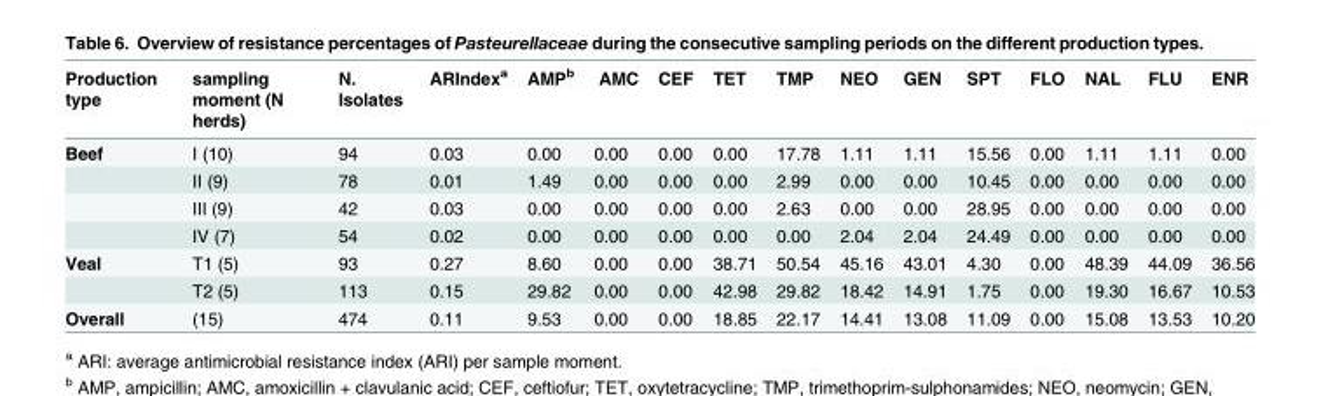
<table><thead><tr><td>Production type</td><td>sampling moment (N herds)</td><td>N. Isolates</td><td>ARIndex<sup>a</sup></td><td>AMP<sup>b</sup></td><td>AMC</td><td>CEF</td><td>TET</td><td>TMP</td><td>NEO</td><td>GEN</td><td>SPT</td><td>FLO</td><td>NAL</td><td>FLU</td><td>ENR</td></tr></thead><tbody><tr><td rowspan="4">Beef</td><td>I (10)</td><td>94</td><td>0.03</td><td>0.00</td><td>0.00</td><td>0.00</td><td>0.00</td><td>17.78</td><td>1.11</td><td>1.11</td><td>15.56</td><td>0.00</td><td>1.11</td><td>1.11</td><td>0.00</td></tr><tr><td>II (9)</td><td>78</td><td>0.01</td><td>1.49</td><td>0.00</td><td>0.00</td><td>0.00</td><td>2.99</td><td>0.00</td><td>0.00</td><td>10.45</td><td>0.00</td><td>0.00</td><td>0.00</td><td>0.00</td></tr><tr><td>III (9)</td><td>42</td><td>0.03</td><td>0.00</td><td>0.00</td><td>0.00</td><td>0.00</td><td>2.63</td><td>0.00</td><td>0.00</td><td>28.95</td><td>0.00</td><td>0.00</td><td>0.00</td><td>0.00</td></tr><tr><td>IV (7)</td><td>54</td><td>0.02</td><td>0.00</td><td>0.00</td><td>0.00</td><td>0.00</td><td>0.00</td><td>2.04</td><td>2.04</td><td>24.49</td><td>0.00</td><td>0.00</td><td>0.00</td><td>0.00</td></tr><tr><td rowspan="2">Veal</td><td>T1 (5)</td><td>93</td><td>0.27</td><td>8.60</td><td>0.00</td><td>0.00</td><td>38.71</td><td>50.54</td><td>45.16</td><td>43.01</td><td>4.30</td><td>0.00</td><td>48.39</td><td>44.09</td><td>36.56</td></tr><tr><td>T2 (5)</td><td>113</td><td>0.15</td><td>29.82</td><td>0.00</td><td>0.00</td><td>42.98</td><td>29.82</td><td>18.42</td><td>14.91</td><td>1.75</td><td>0.00</td><td>19.30</td><td>16.67</td><td>10.53</td></tr><tr><td>Overall</td><td>(15)</td><td>474</td><td>0.11</td><td>9.53</td><td>0.00</td><td>0.00</td><td>18.85</td><td>22.17</td><td>14.41</td><td>13.08</td><td>11.09</td><td>0.00</td><td>15.08</td><td>13.53</td><td>10.20</td></tr></tbody></table>